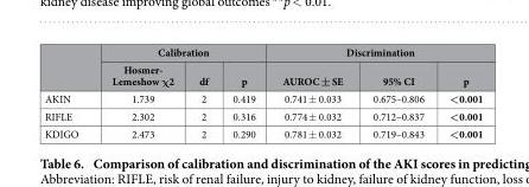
<table><thead><tr><td rowspan="2"></td><td colspan="3">Calibration</td><td colspan="3">Discrimination</td></tr><tr><td>Hosmer- Lemeshow χ2</td><td>df</td><td>p</td><td>AUROC ± SE</td><td>95% CI</td><td>p</td></tr></thead><tbody><tr><td>AKIN</td><td>1.739</td><td>2</td><td>0.419</td><td>0.741 ± 0.033</td><td>0.675–0.806</td><td>&lt;0.001</td></tr><tr><td>RIFLE</td><td>2.302</td><td>2</td><td>0.316</td><td>0.774 ± 0.032</td><td>0.712–0.837</td><td>&lt;0.001</td></tr><tr><td>KDIGO</td><td>2.473</td><td>2</td><td>0.290</td><td>0.781 ± 0.032</td><td>0.719–0.843</td><td>&lt;0.001</td></tr></tbody></table>